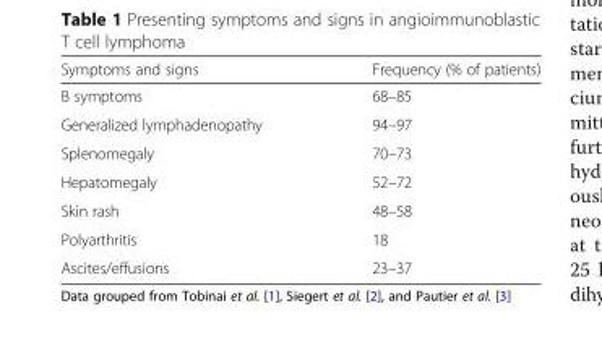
<table><thead><tr><td>Symptoms and signs</td><td>Frequency (% of patients)</td></tr></thead><tbody><tr><td>B symptoms</td><td>68–85</td></tr><tr><td>Generalized lymphadenopathy</td><td>94–97</td></tr><tr><td>Splenomegaly</td><td>70–73</td></tr><tr><td>Hepatomegaly</td><td>52–72</td></tr><tr><td>Skin rash</td><td>48–58</td></tr><tr><td>Polyarthritis</td><td>18</td></tr><tr><td>Ascites/effusions</td><td>23–37</td></tr></tbody></table>